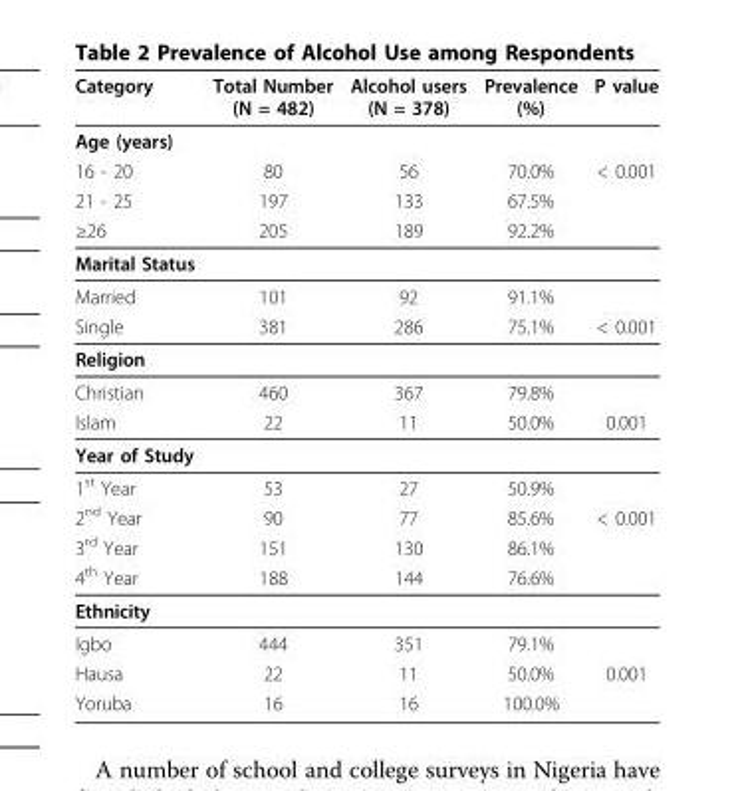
<table><thead><tr><td>Category</td><td>Total Number (N = 482)</td><td>Alcohol users (N = 378)</td><td>Prevalence (%)</td><td>P value</td></tr></thead><tbody><tr><td colspan="5">Age (years)</td></tr><tr><td>16 - 20</td><td>80</td><td>56</td><td>70.0%</td><td>&lt; 0.001</td></tr><tr><td>21 - 25</td><td>197</td><td>133</td><td>67.5%</td><td></td></tr><tr><td>≥26</td><td>205</td><td>189</td><td>92.2%</td><td></td></tr><tr><td colspan="5">Marital Status</td></tr><tr><td>Married</td><td>101</td><td>92</td><td>91.1%</td><td></td></tr><tr><td>Single</td><td>381</td><td>286</td><td>75.1%</td><td>&lt; 0.001</td></tr><tr><td colspan="5">Religion</td></tr><tr><td>Christian</td><td>460</td><td>367</td><td>79.8%</td><td></td></tr><tr><td>Islam</td><td>22</td><td>11</td><td>50.0%</td><td>0.001</td></tr><tr><td colspan="5">Year of Study</td></tr><tr><td>1<sup>st</sup> Year</td><td>53</td><td>27</td><td>50.9%</td><td></td></tr><tr><td>2<sup>nd</sup> Year</td><td>90</td><td>77</td><td>85.6%</td><td>&lt; 0.001</td></tr><tr><td>3<sup>rd</sup> Year</td><td>151</td><td>130</td><td>86.1%</td><td></td></tr><tr><td>4<sup>th</sup> Year</td><td>188</td><td>144</td><td>76.6%</td><td></td></tr><tr><td colspan="5">Ethnicity</td></tr><tr><td>Igbo</td><td>444</td><td>351</td><td>79.1%</td><td></td></tr><tr><td>Hausa</td><td>22</td><td>11</td><td>50.0%</td><td>0.001</td></tr><tr><td>Yoruba</td><td>16</td><td>16</td><td>100.0%</td><td></td></tr></tbody></table>